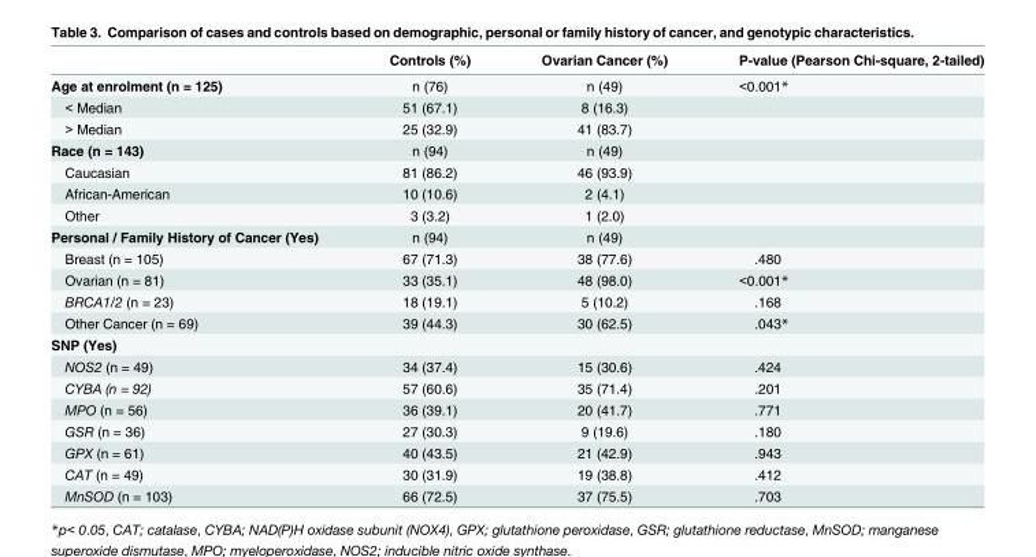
<table><thead><tr><td></td><td>Controls (%)</td><td>Ovarian Cancer (%)</td><td>P-value (Pearson Chi-square, 2-tailed)</td></tr></thead><tbody><tr><td>Age at enrolment (n = 125)</td><td>n (76)</td><td>n (49)</td><td>&lt;0.001*</td></tr><tr><td>&lt; Median</td><td>51 (67.1)</td><td>8 (16.3)</td><td></td></tr><tr><td>&gt; Median</td><td>25 (32.9)</td><td>41 (83.7)</td><td></td></tr><tr><td>Race (n = 143)</td><td>n (94)</td><td>n (49)</td><td></td></tr><tr><td>Caucasian</td><td>81 (86.2)</td><td>46 (93.9)</td><td></td></tr><tr><td>African-American</td><td>10 (10.6)</td><td>2 (4.1)</td><td></td></tr><tr><td>Other</td><td>3 (3.2)</td><td>1 (2.0)</td><td></td></tr><tr><td>Personal / Family History of Cancer (Yes)</td><td>n (94)</td><td>n (49)</td><td></td></tr><tr><td>Breast (n = 105)</td><td>67 (71.3)</td><td>38 (77.6)</td><td>.480</td></tr><tr><td>Ovarian (n = 81)</td><td>33 (35.1)</td><td>48 (98.0)</td><td>&lt;0.001*</td></tr><tr><td>BRCA1/2 (n = 23)</td><td>18 (19.1)</td><td>5 (10.2)</td><td>.168</td></tr><tr><td>Other Cancer (n = 69)</td><td>39 (44.3)</td><td>30 (62.5)</td><td>.043*</td></tr><tr><td colspan="4">SNP (Yes)</td></tr><tr><td>NOS2 (n = 49)</td><td>34 (37.4)</td><td>15 (30.6)</td><td>.424</td></tr><tr><td>CYBA (n = 92)</td><td>57 (60.6)</td><td>35 (71.4)</td><td>.201</td></tr><tr><td>MPO (n = 56)</td><td>36 (39.1)</td><td>20 (41.7)</td><td>.771</td></tr><tr><td>GSR (n = 36)</td><td>27 (30.3)</td><td>9 (19.6)</td><td>.180</td></tr><tr><td>GPX (n = 61)</td><td>40 (43.5)</td><td>21 (42.9)</td><td>.943</td></tr><tr><td>CAT (n = 49)</td><td>30 (31.9)</td><td>19 (38.8)</td><td>.412</td></tr><tr><td>MnSOD (n = 103)</td><td>66 (72.5)</td><td>37 (75.5)</td><td>.703</td></tr></tbody></table>